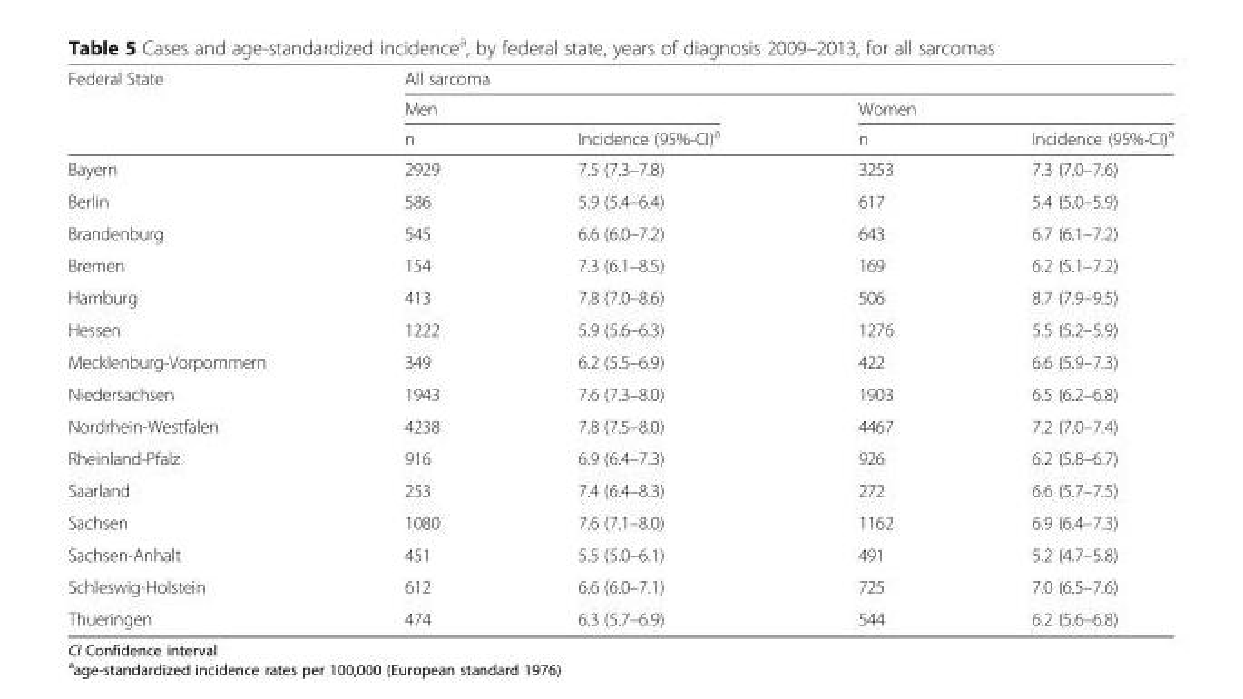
<table><thead><tr><td rowspan="3">Federal State</td><td colspan="4">All sarcoma</td></tr><tr><td colspan="2">Men</td><td colspan="2">Women</td></tr><tr><td>n</td><td>Incidence (95%-CI)<sup>a</sup></td><td>n</td><td>Incidence (95%-CI)<sup>a</sup></td></tr></thead><tbody><tr><td>Bayern</td><td>2929</td><td>7.5 (7.3–7.8)</td><td>3253</td><td>7.3 (7.0–7.6)</td></tr><tr><td>Berlin</td><td>586</td><td>5.9 (5.4–6.4)</td><td>617</td><td>5.4 (5.0–5.9)</td></tr><tr><td>Brandenburg</td><td>545</td><td>6.6 (6.0–7.2)</td><td>643</td><td>6.7 (6.1–7.2)</td></tr><tr><td>Bremen</td><td>154</td><td>7.3 (6.1–8.5)</td><td>169</td><td>6.2 (5.1–7.2)</td></tr><tr><td>Hamburg</td><td>413</td><td>7.8 (7.0–8.6)</td><td>506</td><td>8.7 (7.9–9.5)</td></tr><tr><td>Hessen</td><td>1222</td><td>5.9 (5.6–6.3)</td><td>1276</td><td>5.5 (5.2–5.9)</td></tr><tr><td>Mecklenburg-Vorpommern</td><td>349</td><td>6.2 (5.5–6.9)</td><td>422</td><td>6.6 (5.9–7.3)</td></tr><tr><td>Niedersachsen</td><td>1943</td><td>7.6 (7.3–8.0)</td><td>1903</td><td>6.5 (6.2–6.8)</td></tr><tr><td>Nordrhein-Westfalen</td><td>4238</td><td>7.8 (7.5–8.0)</td><td>4467</td><td>7.2 (7.0–7.4)</td></tr><tr><td>Rheinland-Pfalz</td><td>916</td><td>6.9 (6.4–7.3)</td><td>926</td><td>6.2 (5.8–6.7)</td></tr><tr><td>Saarland</td><td>253</td><td>7.4 (6.4–8.3)</td><td>272</td><td>6.6 (5.7–7.5)</td></tr><tr><td>Sachsen</td><td>1080</td><td>7.6 (7.1–8.0)</td><td>1162</td><td>6.9 (6.4–7.3)</td></tr><tr><td>Sachsen-Anhalt</td><td>451</td><td>5.5 (5.0–6.1)</td><td>491</td><td>5.2 (4.7–5.8)</td></tr><tr><td>Schleswig-Holstein</td><td>612</td><td>6.6 (6.0–7.1)</td><td>725</td><td>7.0 (6.5–7.6)</td></tr><tr><td>Thueringen</td><td>474</td><td>6.3 (5.7–6.9)</td><td>544</td><td>6.2 (5.6–6.8)</td></tr></tbody></table>